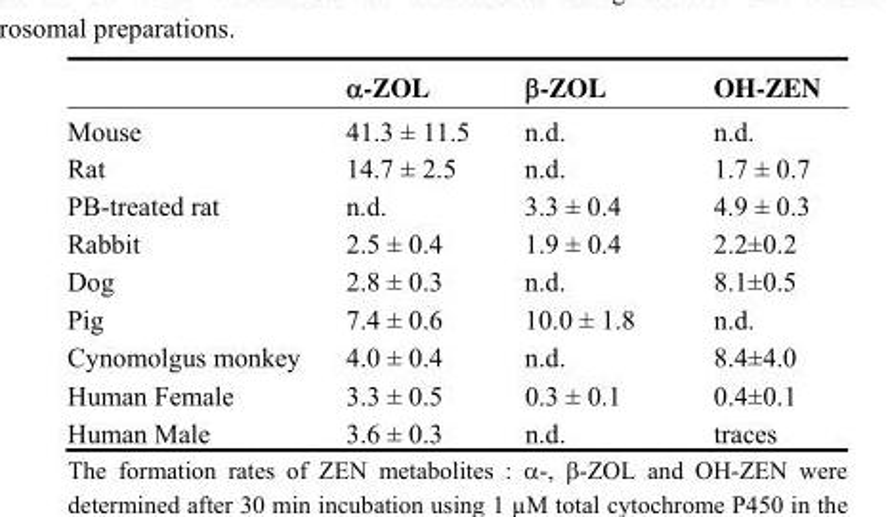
<table><thead><tr><td></td><td>α-ZOL</td><td>β-ZOL</td><td>OH-ZEN</td></tr></thead><tbody><tr><td>Mouse</td><td>41.3 ± 11.5</td><td>n.d.</td><td>n.d.</td></tr><tr><td>Rat</td><td>14.7 ± 2.5</td><td>n.d.</td><td>1.7 ± 0.7</td></tr><tr><td>PB-treated rat</td><td>n.d.</td><td>3.3 ± 0.4</td><td>4.9 ± 0.3</td></tr><tr><td>Rabbit</td><td>2.5 ± 0.4</td><td>1.9 ± 0.4</td><td>2.2±0.2</td></tr><tr><td>Dog</td><td>2.8 ± 0.3</td><td>n.d.</td><td>8.1±0.5</td></tr><tr><td>Pig</td><td>7.4 ± 0.6</td><td>10.0 ± 1.8</td><td>n.d.</td></tr><tr><td>Cynomolgus monkey</td><td>4.0 ± 0.4</td><td>n.d.</td><td>8.4±4.0</td></tr><tr><td>Human Female</td><td>3.3 ± 0.5</td><td>0.3 ± 0.1</td><td>0.4±0.1</td></tr><tr><td>Human Male</td><td>3.6 ± 0.3</td><td>n.d.</td><td>traces</td></tr></tbody></table>